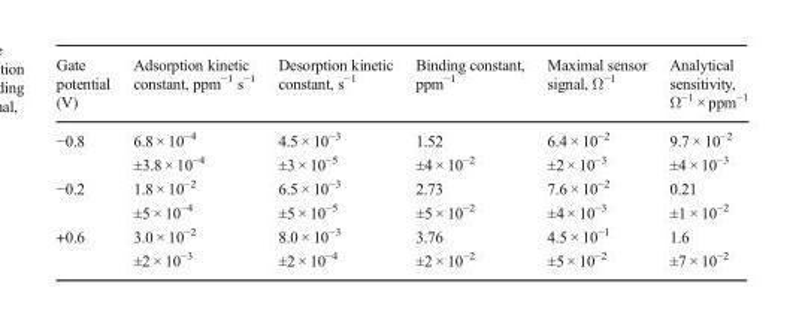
<table><thead><tr><td>Gate potential (V)</td><td>Adsorption kinetic constant, ppm<sup>−1</sup> s<sup>−1</sup></td><td>Desorption kinetic constant, s<sup>−1</sup></td><td>Binding constant, ppm<sup>−1</sup></td><td>Maximal sensor signal, Ω<sup>−1</sup></td><td>Analytical sensitivity, Ω<sup>−1</sup> × ppm<sup>−1</sup></td></tr></thead><tbody><tr><td rowspan="2">−0.8</td><td>6.8 × 10<sup>−4</sup></td><td>4.5 × 10<sup>−3</sup></td><td>1.52</td><td>6.4 × 10<sup>−2</sup></td><td>9.7 × 10<sup>−2</sup></td></tr><tr><td>±3.8 × 10<sup>−4</sup></td><td>±3 × 10<sup>−5</sup></td><td>±4 × 10<sup>−2</sup></td><td>±2 × 10<sup>−3</sup></td><td>±4 × 10<sup>−3</sup></td></tr><tr><td rowspan="2">−0.2</td><td>1.8 × 10<sup>−2</sup></td><td>6.5 × 10<sup>−3</sup></td><td>2.73</td><td>7.6 × 10<sup>−2</sup></td><td>0.21</td></tr><tr><td>±5 × 10<sup>−4</sup></td><td>±5 × 10<sup>−5</sup></td><td>±5 × 10<sup>−2</sup></td><td>±4 × 10<sup>−3</sup></td><td>±1 × 10<sup>−2</sup></td></tr><tr><td rowspan="2">+0.6</td><td>3.0 × 10<sup>−2</sup></td><td>8.0 × 10<sup>−3</sup></td><td>3.76</td><td>4.5 × 10<sup>−1</sup></td><td>1.6</td></tr><tr><td>±2 × 10<sup>−3</sup></td><td>±2 × 10<sup>−4</sup></td><td>±2 × 10<sup>−2</sup></td><td>±5 × 10<sup>−2</sup></td><td>±7 × 10<sup>−2</sup></td></tr></tbody></table>